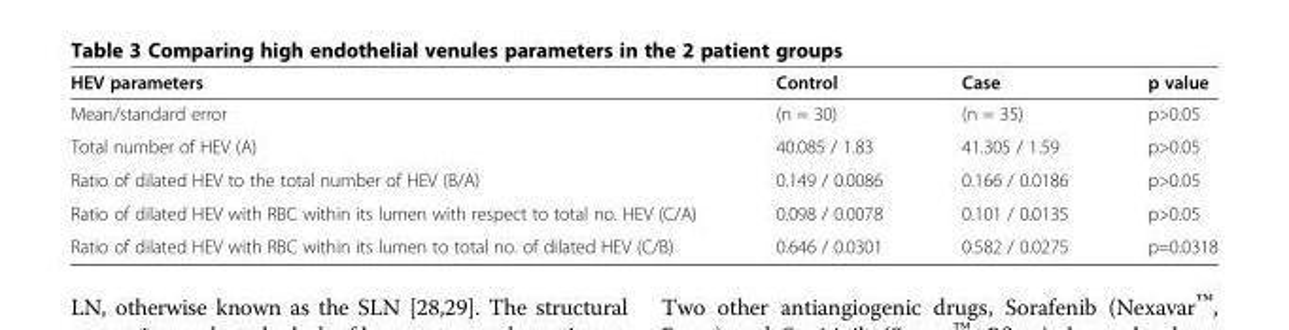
<table><thead><tr><td>HEV parameters</td><td>Control</td><td>Case</td><td>p value</td></tr></thead><tbody><tr><td>Mean/standard error</td><td>(n = 30)</td><td>(n = 35)</td><td>p&gt;0.05</td></tr><tr><td>Total number of HEV (A)</td><td>40.085 / 1.83</td><td>41.305 / 1.59</td><td>p&gt;0.05</td></tr><tr><td>Ratio of dilated HEV to the total number of HEV (B/A)</td><td>0.149 / 0.0086</td><td>0.166 / 0.0186</td><td>p&gt;0.05</td></tr><tr><td>Ratio of dilated HEV with RBC within its lumen with respect to total no. HEV (C/A)</td><td>0.098 / 0.0078</td><td>0.101 / 0.0135</td><td>p&gt;0.05</td></tr><tr><td>Ratio of dilated HEV with RBC within its lumen to total no. of dilated HEV (C/B)</td><td>0.646 / 0.0301</td><td>0.582 / 0.0275</td><td>p=0.0318</td></tr></tbody></table>